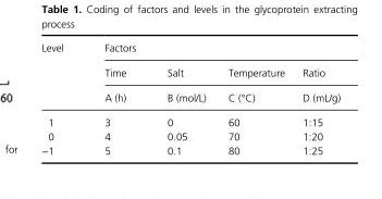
<table><thead><tr><td rowspan="3">Level</td><td colspan="4">Factors</td></tr><tr><td rowspan="2">Time A (h)</td><td rowspan="2">Salt B (mol/L)</td><td rowspan="2">Temperature C (°C)</td><td rowspan="2">Ratio D (mL/g)</td></tr><tr></tr></thead><tbody><tr><td>1</td><td>3</td><td>0</td><td>60</td><td>1:15</td></tr><tr><td>0</td><td>4</td><td>0.05</td><td>70</td><td>1:20</td></tr><tr><td>−1</td><td>5</td><td>0.1</td><td>80</td><td>1:25</td></tr></tbody></table>